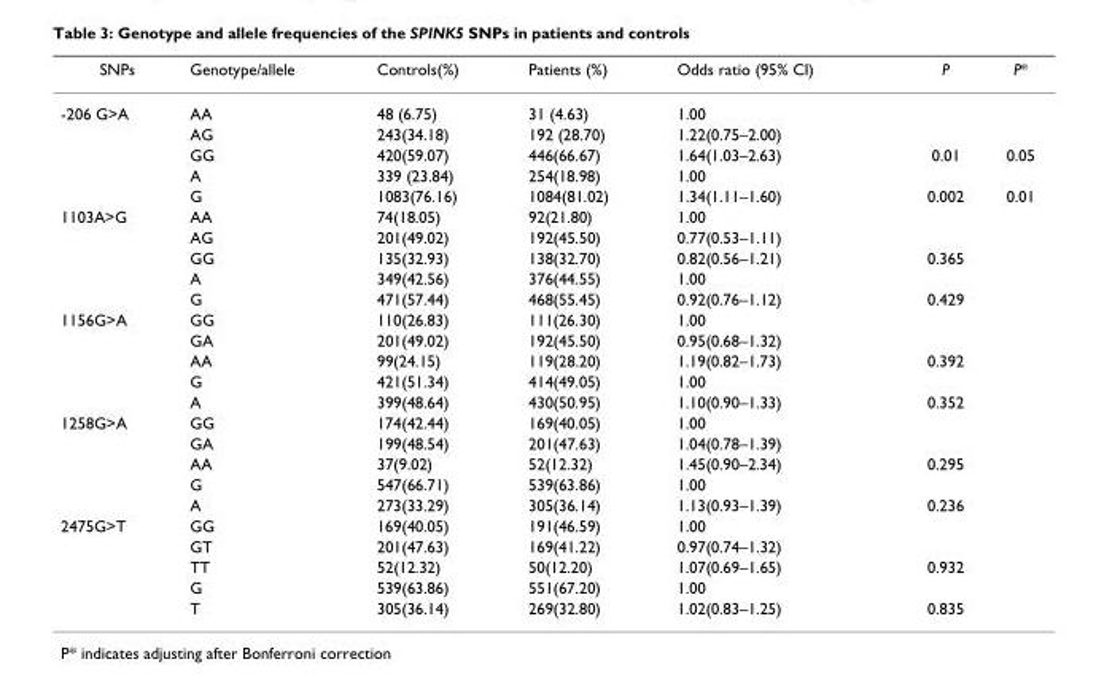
<table><thead><tr><td>SNPs</td><td>Genotype/allele</td><td>Controls(%)</td><td>Patients (%)</td><td>Odds ratio (95% CI)</td><td>P</td><td>P*</td></tr></thead><tbody><tr><td rowspan="5">-206 G&gt;A</td><td>AA</td><td>48 (6.75)</td><td>31 (4.63)</td><td>1.00</td><td></td><td></td></tr><tr><td>AG</td><td>243(34.18)</td><td>192 (28.70)</td><td>1.22(0.75–2.00)</td><td></td><td></td></tr><tr><td>GG</td><td>420(59.07)</td><td>446(66.67)</td><td>1.64(1.03–2.63)</td><td>0.01</td><td>0.05</td></tr><tr><td>A</td><td>339 (23.84)</td><td>254(18.98)</td><td>1.00</td><td></td><td></td></tr><tr><td>G</td><td>1083(76.16)</td><td>1084(81.02)</td><td>1.34(1.11–1.60)</td><td>0.002</td><td>0.01</td></tr><tr><td rowspan="5">1103A&gt;G</td><td>AA</td><td>74(18.05)</td><td>92(21.80)</td><td>1.00</td><td></td><td></td></tr><tr><td>AG</td><td>201(49.02)</td><td>192(45.50)</td><td>0.77(0.53–1.11)</td><td></td><td></td></tr><tr><td>GG</td><td>135(32.93)</td><td>138(32.70)</td><td>0.82(0.56–1.21)</td><td>0.365</td><td></td></tr><tr><td>A</td><td>349(42.56)</td><td>376(44.55)</td><td>1.00</td><td></td><td></td></tr><tr><td>G</td><td>471(57.44)</td><td>468(55.45)</td><td>0.92(0.76–1.12)</td><td>0.429</td><td></td></tr><tr><td rowspan="5">1156G&gt;A</td><td>GG</td><td>110(26.83)</td><td>111(26.30)</td><td>1.00</td><td></td><td></td></tr><tr><td>GA</td><td>201(49.02)</td><td>192(45.50)</td><td>0.95(0.68–1.32)</td><td></td><td></td></tr><tr><td>AA</td><td>99(24.15)</td><td>119(28.20)</td><td>1.19(0.82–1.73)</td><td>0.392</td><td></td></tr><tr><td>G</td><td>421(51.34)</td><td>414(49.05)</td><td>1.00</td><td></td><td></td></tr><tr><td>A</td><td>399(48.64)</td><td>430(50.95)</td><td>1.10(0.90–1.33)</td><td>0.352</td><td></td></tr><tr><td rowspan="5">1258G&gt;A</td><td>GG</td><td>174(42.44)</td><td>169(40.05)</td><td>1.00</td><td></td><td></td></tr><tr><td>GA</td><td>199(48.54)</td><td>201(47.63)</td><td>1.04(0.78–1.39)</td><td></td><td></td></tr><tr><td>AA</td><td>37(9.02)</td><td>52(12.32)</td><td>1.45(0.90–2.34)</td><td>0.295</td><td></td></tr><tr><td>G</td><td>547(66.71)</td><td>539(63.86)</td><td>1.00</td><td></td><td></td></tr><tr><td>A</td><td>273(33.29)</td><td>305(36.14)</td><td>1.13(0.93–1.39)</td><td>0.236</td><td></td></tr><tr><td rowspan="5">2475G&gt;T</td><td>GG</td><td>169(40.05)</td><td>191(46.59)</td><td>1.00</td><td></td><td></td></tr><tr><td>GT</td><td>201(47.63)</td><td>169(41.22)</td><td>0.97(0.74–1.32)</td><td></td><td></td></tr><tr><td>TT</td><td>52(12.32)</td><td>50(12.20)</td><td>1.07(0.69–1.65)</td><td>0.932</td><td></td></tr><tr><td>G</td><td>539(63.86)</td><td>551(67.20)</td><td>1.00</td><td></td><td></td></tr><tr><td>T</td><td>305(36.14)</td><td>269(32.80)</td><td>1.02(0.83–1.25)</td><td>0.835</td><td></td></tr></tbody></table>